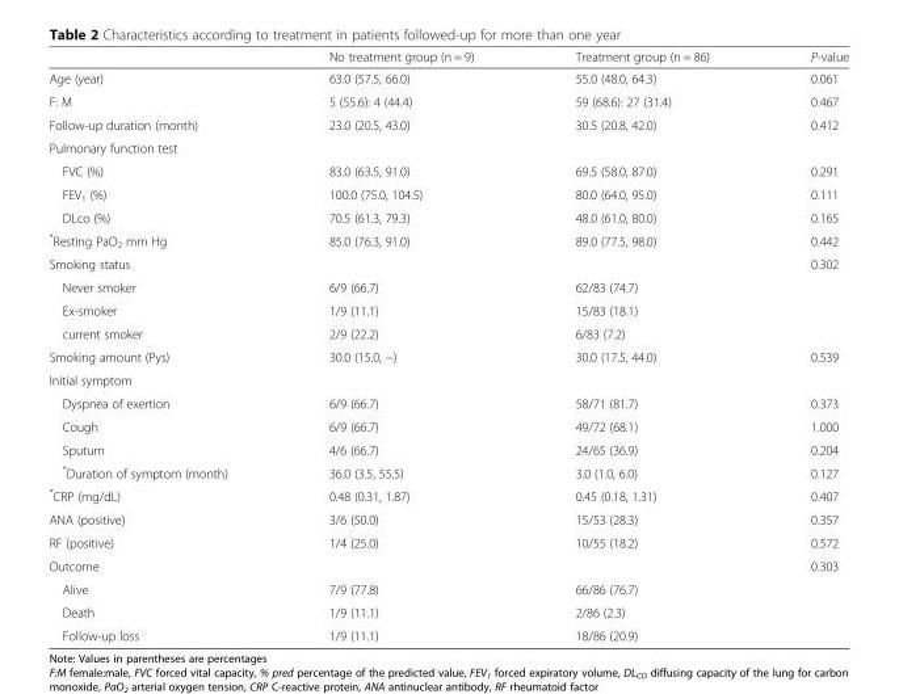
<table><thead><tr><td></td><td>No treatment group (n = 9)</td><td>Treatment group (n = 86)</td><td>P-value</td></tr></thead><tbody><tr><td>Age (year)</td><td>63.0 (57.5, 66.0)</td><td>55.0 (48.0, 64.3)</td><td>0.061</td></tr><tr><td>F: M</td><td>5 (55.6): 4 (44.4)</td><td>59 (68.6): 27 (31.4)</td><td>0.467</td></tr><tr><td>Follow-up duration (month)</td><td>23.0 (20.5, 43.0)</td><td>30.5 (20.8, 42.0)</td><td>0.412</td></tr><tr><td colspan="4">Pulmonary function test</td></tr><tr><td>FVC (%)</td><td>83.0 (63.5, 91.0)</td><td>69.5 (58.0, 87.0)</td><td>0.291</td></tr><tr><td>FEV<sub>1</sub> (%)</td><td>100.0 (75.0, 104.5)</td><td>80.0 (64.0, 95.0)</td><td>0.111</td></tr><tr><td>DLco (%)</td><td>70.5 (61.3, 79.3)</td><td>48.0 (61.0, 80.0)</td><td>0.165</td></tr><tr><td>*Resting PaO<sub>2</sub> mm Hg</td><td>85.0 (76.3, 91.0)</td><td>89.0 (77.5, 98.0)</td><td>0.442</td></tr><tr><td>Smoking status</td><td></td><td></td><td>0.302</td></tr><tr><td>Never smoker</td><td>6/9 (66.7)</td><td>62/83 (74.7)</td><td></td></tr><tr><td>Ex-smoker</td><td>1/9 (11.1)</td><td>15/83 (18.1)</td><td></td></tr><tr><td>current smoker</td><td>2/9 (22.2)</td><td>6/83 (7.2)</td><td></td></tr><tr><td>Smoking amount (Pys)</td><td>30.0 (15.0, −)</td><td>30.0 (17.5, 44.0)</td><td>0.539</td></tr><tr><td colspan="4">Initial symptom</td></tr><tr><td>Dyspnea of exertion</td><td>6/9 (66.7)</td><td>58/71 (81.7)</td><td>0.373</td></tr><tr><td>Cough</td><td>6/9 (66.7)</td><td>49/72 (68.1)</td><td>1.000</td></tr><tr><td>Sputum</td><td>4/6 (66.7)</td><td>24/65 (36.9)</td><td>0.204</td></tr><tr><td>*Duration of symptom (month)</td><td>36.0 (3.5, 55.5)</td><td>3.0 (1.0, 6.0)</td><td>0.127</td></tr><tr><td>*CRP (mg/dL)</td><td>0.48 (0.31, 1.87)</td><td>0.45 (0.18, 1.31)</td><td>0.407</td></tr><tr><td>ANA (positive)</td><td>3/6 (50.0)</td><td>15/53 (28.3)</td><td>0.357</td></tr><tr><td>RF (positive)</td><td>1/4 (25.0)</td><td>10/55 (18.2)</td><td>0.572</td></tr><tr><td>Outcome</td><td></td><td></td><td>0.303</td></tr><tr><td>Alive</td><td>7/9 (77.8)</td><td>66/86 (76.7)</td><td></td></tr><tr><td>Death</td><td>1/9 (11.1)</td><td>2/86 (2.3)</td><td></td></tr><tr><td>Follow-up loss</td><td>1/9 (11.1)</td><td>18/86 (20.9)</td><td></td></tr></tbody></table>